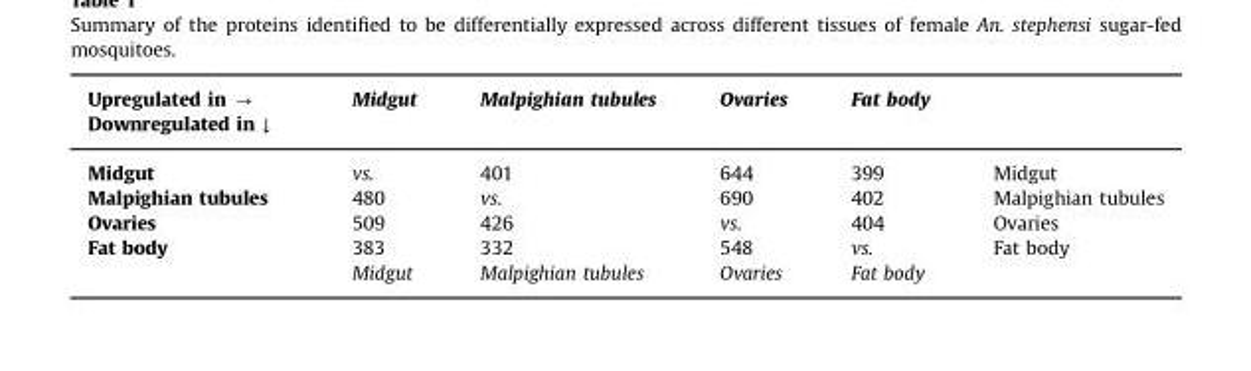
<table><thead><tr><td rowspan="2">Upregulated in - Downregulated in ↓</td><td rowspan="2">Midgut</td><td rowspan="2">Malpighian tubules</td><td rowspan="2">Ovaries</td><td rowspan="2">Fat body</td><td rowspan="2"></td></tr><tr></tr></thead><tbody><tr><td>Midgut</td><td>vs.</td><td>401</td><td>644</td><td>399</td><td>Midgut</td></tr><tr><td>Malpighian tubules</td><td>480</td><td>vs.</td><td>690</td><td>402</td><td>Malpighian tubules</td></tr><tr><td>Ovaries</td><td>509</td><td>426</td><td>vs.</td><td>404</td><td>Ovaries</td></tr><tr><td rowspan="2">Fat body</td><td>383</td><td>332</td><td>548</td><td>vs.</td><td>Fat body</td></tr><tr><td>Midgut</td><td>Malpighian tubules</td><td>Ovaries</td><td>Fat body</td><td></td></tr></tbody></table>